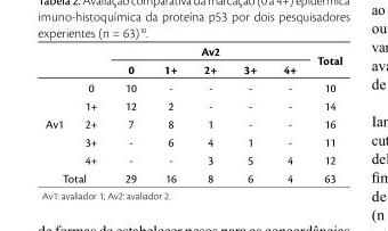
<table><thead><tr><td rowspan="2"></td><td rowspan="2"></td><td colspan="5">Av2</td><td rowspan="2">Total</td></tr><tr><td>0</td><td>1+</td><td>2+</td><td>3+</td><td>4+</td></tr></thead><tbody><tr><td rowspan="5">Av1</td><td>0</td><td>10</td><td>-</td><td>-</td><td>-</td><td>-</td><td>10</td></tr><tr><td>1+</td><td>12</td><td>2</td><td>-</td><td>-</td><td>-</td><td>14</td></tr><tr><td>2+</td><td>7</td><td>8</td><td>1</td><td>-</td><td>-</td><td>16</td></tr><tr><td>3+</td><td>-</td><td>6</td><td>4</td><td>1</td><td>-</td><td>11</td></tr><tr><td>4+</td><td>-</td><td>-</td><td>3</td><td>5</td><td>4</td><td>12</td></tr><tr><td colspan="2">Total</td><td>29</td><td>16</td><td>8</td><td>6</td><td>4</td><td>63</td></tr></tbody></table>